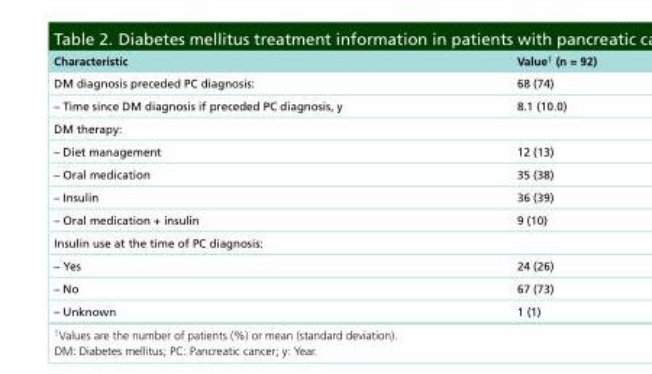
<table><thead><tr><td>Characteristic</td><td>Value<sup>†</sup> (n = 92)</td></tr></thead><tbody><tr><td>DM diagnosis preceded PC diagnosis:</td><td>68 (74)</td></tr><tr><td>– Time since DM diagnosis if preceded PC diagnosis, y</td><td>8.1 (10.0)</td></tr><tr><td colspan="2">DM therapy:</td></tr><tr><td>– Diet management</td><td>12 (13)</td></tr><tr><td>– Oral medication</td><td>35 (38)</td></tr><tr><td>– Insulin</td><td>36 (39)</td></tr><tr><td>– Oral medication + insulin</td><td>9 (10)</td></tr><tr><td colspan="2">Insulin use at the time of PC diagnosis:</td></tr><tr><td>– Yes</td><td>24 (26)</td></tr><tr><td>– No</td><td>67 (73)</td></tr><tr><td>– Unknown</td><td>1 (1)</td></tr></tbody></table>